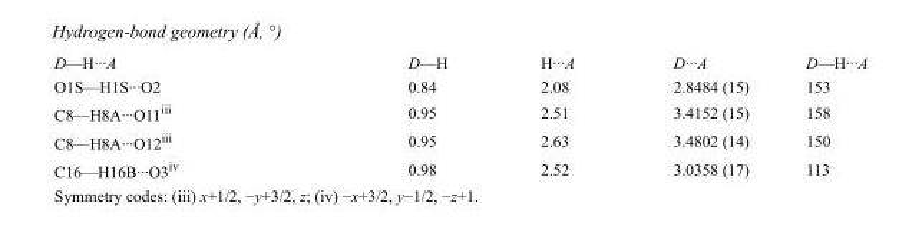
<table><tbody><tr><td>D—H···A</td><td>D—H</td><td>H···A</td><td>D···A</td><td>D—H···A</td></tr><tr><td>O1S—H1S···O2</td><td>0.84</td><td>2.08</td><td>2.8484 (15)</td><td>153</td></tr><tr><td>C8—H8A···O11<sup>iii</sup></td><td>0.95</td><td>2.51</td><td>3.4152 (15)</td><td>158</td></tr><tr><td>C8—H8A···O12<sup>iii</sup></td><td>0.95</td><td>2.63</td><td>3.4802 (14)</td><td>150</td></tr><tr><td>C16—H16B···O3<sup>iv</sup></td><td>0.98</td><td>2.52</td><td>3.0358 (17)</td><td>113</td></tr></tbody></table>